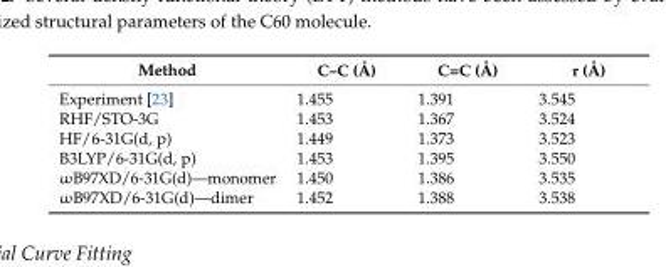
<table><thead><tr><td>Method</td><td>C–C (Å)</td><td>C=C (Å)</td><td>r (Å)</td></tr></thead><tbody><tr><td>Experiment [23]</td><td>1.455</td><td>1.391</td><td>3.545</td></tr><tr><td>RHF/STO-3G</td><td>1.453</td><td>1.367</td><td>3.524</td></tr><tr><td>HF/6-31G(d, p)</td><td>1.449</td><td>1.373</td><td>3.523</td></tr><tr><td>B3LYP/6-31G(d, p)</td><td>1.453</td><td>1.395</td><td>3.550</td></tr><tr><td>ωB97XD/6-31G(d)—monomer</td><td>1.450</td><td>1.386</td><td>3.535</td></tr><tr><td>ωB97XD/6-31G(d)—dimer</td><td>1.452</td><td>1.388</td><td>3.538</td></tr></tbody></table>